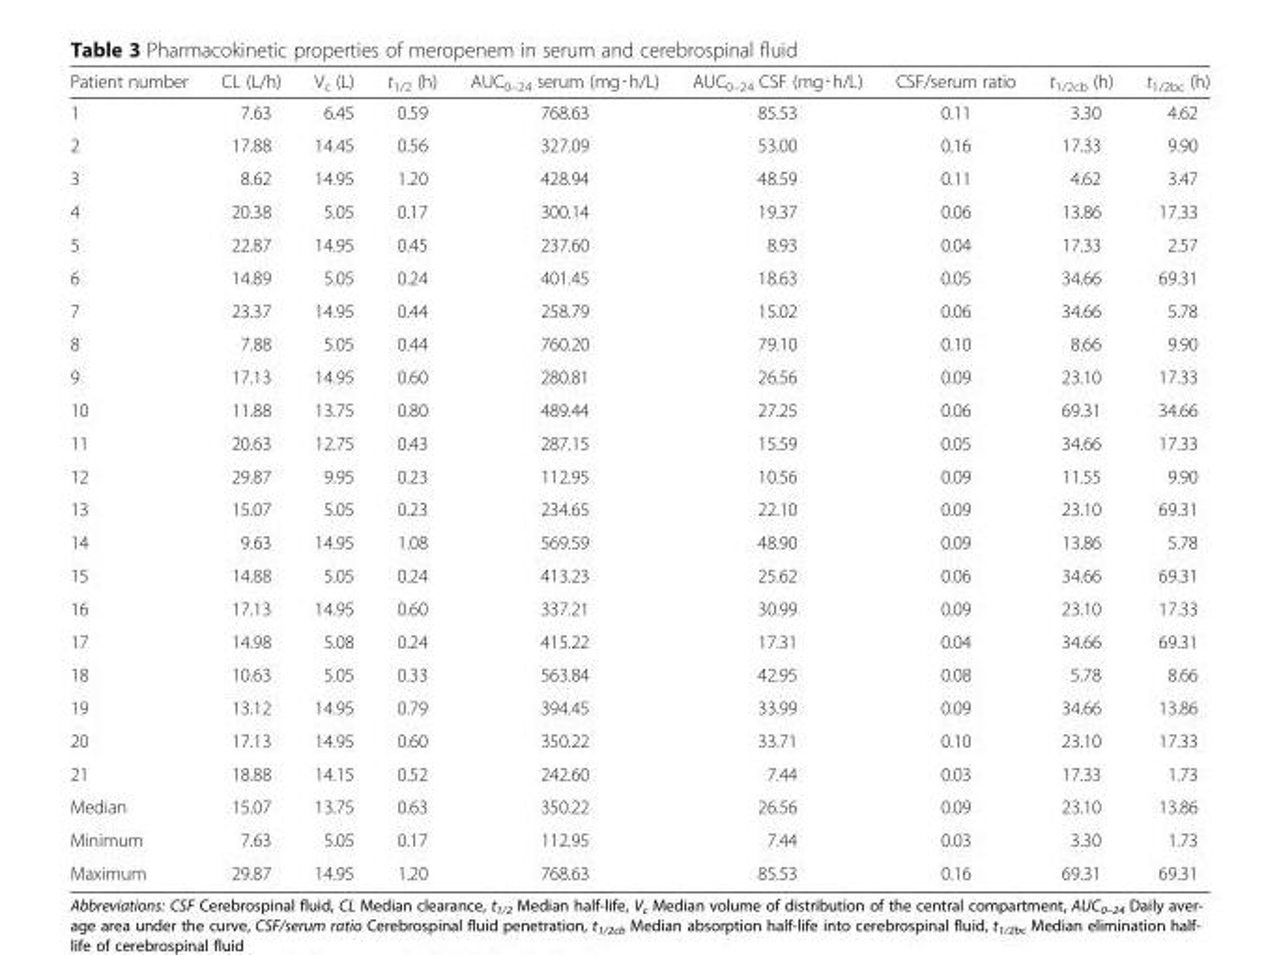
<table><thead><tr><td>Patient number</td><td>CL (L/h)</td><td>V<sub>c</sub> (L)</td><td>t<sub>1/2</sub> (h)</td><td>AUC<sub>0–24</sub> serum (mg∙h/L)</td><td>AUC<sub>0–24</sub> CSF (mg∙h/L)</td><td>CSF/serum ratio</td><td>t<sub>1/2cb</sub> (h)</td><td>t<sub>1/2bc</sub> (h)</td></tr></thead><tbody><tr><td>1</td><td>7.63</td><td>6.45</td><td>0.59</td><td>768.63</td><td>85.53</td><td>0.11</td><td>3.30</td><td>4.62</td></tr><tr><td>2</td><td>17.88</td><td>14.45</td><td>0.56</td><td>327.09</td><td>53.00</td><td>0.16</td><td>17.33</td><td>9.90</td></tr><tr><td>3</td><td>8.62</td><td>14.95</td><td>1.20</td><td>428.94</td><td>48.59</td><td>0.11</td><td>4.62</td><td>3.47</td></tr><tr><td>4</td><td>20.38</td><td>5.05</td><td>0.17</td><td>300.14</td><td>19.37</td><td>0.06</td><td>13.86</td><td>17.33</td></tr><tr><td>5</td><td>22.87</td><td>14.95</td><td>0.45</td><td>237.60</td><td>8.93</td><td>0.04</td><td>17.33</td><td>2.57</td></tr><tr><td>6</td><td>14.89</td><td>5.05</td><td>0.24</td><td>401.45</td><td>18.63</td><td>0.05</td><td>34.66</td><td>69.31</td></tr><tr><td>7</td><td>23.37</td><td>14.95</td><td>0.44</td><td>258.79</td><td>15.02</td><td>0.06</td><td>34.66</td><td>5.78</td></tr><tr><td>8</td><td>7.88</td><td>5.05</td><td>0.44</td><td>760.20</td><td>79.10</td><td>0.10</td><td>8.66</td><td>9.90</td></tr><tr><td>9</td><td>17.13</td><td>14.95</td><td>0.60</td><td>280.81</td><td>26.56</td><td>0.09</td><td>23.10</td><td>17.33</td></tr><tr><td>10</td><td>11.88</td><td>13.75</td><td>0.80</td><td>489.44</td><td>27.25</td><td>0.06</td><td>69.31</td><td>34.66</td></tr><tr><td>11</td><td>20.63</td><td>12.75</td><td>0.43</td><td>287.15</td><td>15.59</td><td>0.05</td><td>34.66</td><td>17.33</td></tr><tr><td>12</td><td>29.87</td><td>9.95</td><td>0.23</td><td>112.95</td><td>10.56</td><td>0.09</td><td>11.55</td><td>9.90</td></tr><tr><td>13</td><td>15.07</td><td>5.05</td><td>0.23</td><td>234.65</td><td>22.10</td><td>0.09</td><td>23.10</td><td>69.31</td></tr><tr><td>14</td><td>9.63</td><td>14.95</td><td>1.08</td><td>569.59</td><td>48.90</td><td>0.09</td><td>13.86</td><td>5.78</td></tr><tr><td>15</td><td>14.88</td><td>5.05</td><td>0.24</td><td>413.23</td><td>25.62</td><td>0.06</td><td>34.66</td><td>69.31</td></tr><tr><td>16</td><td>17.13</td><td>14.95</td><td>0.60</td><td>337.21</td><td>30.99</td><td>0.09</td><td>23.10</td><td>17.33</td></tr><tr><td>17</td><td>14.98</td><td>5.08</td><td>0.24</td><td>415.22</td><td>17.31</td><td>0.04</td><td>34.66</td><td>69.31</td></tr><tr><td>18</td><td>10.63</td><td>5.05</td><td>0.33</td><td>563.84</td><td>42.95</td><td>0.08</td><td>5.78</td><td>8.66</td></tr><tr><td>19</td><td>13.12</td><td>14.95</td><td>0.79</td><td>394.45</td><td>33.99</td><td>0.09</td><td>34.66</td><td>13.86</td></tr><tr><td>20</td><td>17.13</td><td>14.95</td><td>0.60</td><td>350.22</td><td>33.71</td><td>0.10</td><td>23.10</td><td>17.33</td></tr><tr><td>21</td><td>18.88</td><td>14.15</td><td>0.52</td><td>242.60</td><td>7.44</td><td>0.03</td><td>17.33</td><td>1.73</td></tr><tr><td>Median</td><td>15.07</td><td>13.75</td><td>0.63</td><td>350.22</td><td>26.56</td><td>0.09</td><td>23.10</td><td>13.86</td></tr><tr><td>Minimum</td><td>7.63</td><td>5.05</td><td>0.17</td><td>112.95</td><td>7.44</td><td>0.03</td><td>3.30</td><td>1.73</td></tr><tr><td>Maximum</td><td>29.87</td><td>14.95</td><td>1.20</td><td>768.63</td><td>85.53</td><td>0.16</td><td>69.31</td><td>69.31</td></tr></tbody></table>